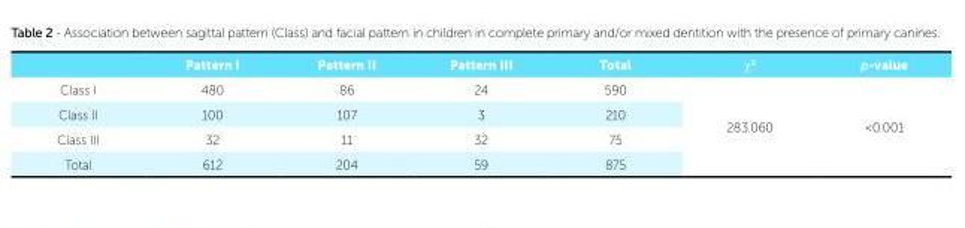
<table><thead><tr><td></td><td>Pattern I</td><td>Pattern II</td><td>Pattern III</td><td>Total</td><td>χ<sup>2</sup></td><td>p-value</td></tr></thead><tbody><tr><td>Class I</td><td>480</td><td>86</td><td>24</td><td>590</td><td rowspan="4">283.060</td><td rowspan="4">&lt;0.001</td></tr><tr><td>Class II</td><td>100</td><td>107</td><td>3</td><td>210</td></tr><tr><td>Class III</td><td>32</td><td>11</td><td>32</td><td>75</td></tr><tr><td>Total</td><td>612</td><td>204</td><td>59</td><td>875</td></tr></tbody></table>